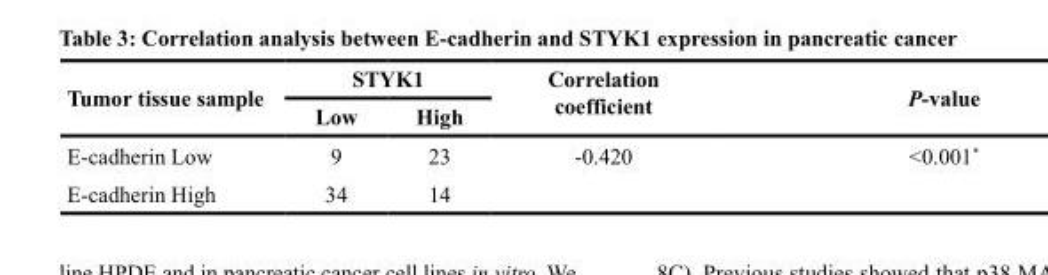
<table><thead><tr><td rowspan="2">Tumor tissue sample</td><td colspan="2">STYK1</td><td rowspan="2">Correlation coefficient</td><td rowspan="2">P-value</td></tr><tr><td>Low</td><td>High</td></tr></thead><tbody><tr><td>E-cadherin Low</td><td>9</td><td>23</td><td>-0.420</td><td>&lt;0.001*</td></tr><tr><td>E-cadherin High</td><td>34</td><td>14</td><td></td><td></td></tr></tbody></table>